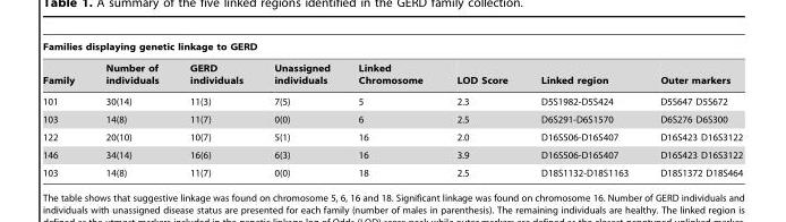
<table><thead><tr><td colspan="8">Families displaying genetic linkage to GERD</td></tr><tr><td>Family</td><td>Number of individuals</td><td>GERD individuals</td><td>Unassigned individuals</td><td>Linked Chromosome</td><td>LOD Score</td><td>Linked region</td><td>Outer markers</td></tr></thead><tbody><tr><td>101</td><td>30(14)</td><td>11(3)</td><td>7(5)</td><td>5</td><td>2.3</td><td>D5S1982-D5S424</td><td>D5S647 D5S672</td></tr><tr><td>103</td><td>14(8)</td><td>11(7)</td><td>0(0)</td><td>6</td><td>2.5</td><td>D6S291-D6S1570</td><td>D6S276 D6S300</td></tr><tr><td>122</td><td>20(10)</td><td>10(7)</td><td>5(1)</td><td>16</td><td>2.0</td><td>D16S506-D16S407</td><td>D16S423 D16S3122</td></tr><tr><td>146</td><td>34(14)</td><td>16(6)</td><td>6(3)</td><td>16</td><td>3.9</td><td>D16S506-D16S407</td><td>D16S423 D16S3122</td></tr><tr><td>103</td><td>14(8)</td><td>11(7)</td><td>0(0)</td><td>18</td><td>2.5</td><td>D18S1132-D18S1163</td><td>D18S1372 D18S464</td></tr></tbody></table>